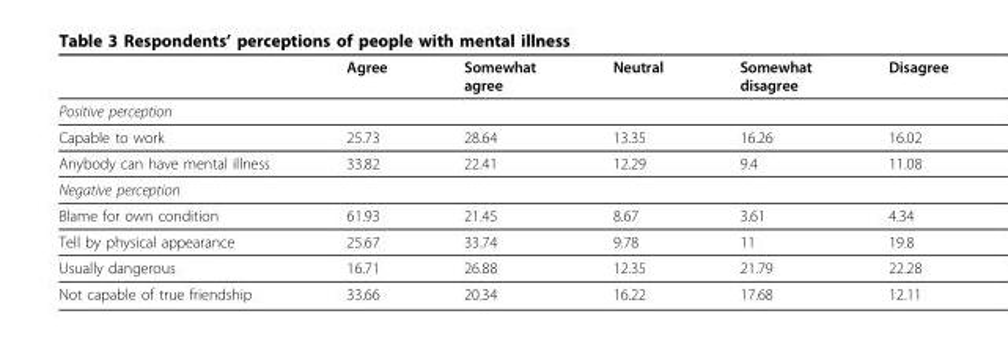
<table><thead><tr><td></td><td>Agree</td><td>Somewhat agree</td><td>Neutral</td><td>Somewhat disagree</td><td>Disagree</td></tr></thead><tbody><tr><td colspan="6">Positive perception</td></tr><tr><td>Capable to work</td><td>25.73</td><td>28.64</td><td>13.35</td><td>16.26</td><td>16.02</td></tr><tr><td>Anybody can have mental illness</td><td>33.82</td><td>22.41</td><td>12.29</td><td>9.4</td><td>11.08</td></tr><tr><td colspan="6">Negative perception</td></tr><tr><td>Blame for own condition</td><td>61.93</td><td>21.45</td><td>8.67</td><td>3.61</td><td>4.34</td></tr><tr><td>Tell by physical appearance</td><td>25.67</td><td>33.74</td><td>9.78</td><td>11</td><td>19.8</td></tr><tr><td>Usually dangerous</td><td>16.71</td><td>26.88</td><td>12.35</td><td>21.79</td><td>22.28</td></tr><tr><td>Not capable of true friendship</td><td>33.66</td><td>20.34</td><td>16.22</td><td>17.68</td><td>12.11</td></tr></tbody></table>